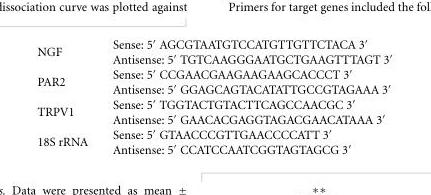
<table><tbody><tr><td rowspan="2">NGF</td><td>Sense: 5′ AGCGTAATGTCCATGTTGTTCTACA 3′</td></tr><tr><td>Antisense: 5′ TGTCAAGGGAATGCTGAAGTTTAGT 3′</td></tr><tr><td rowspan="2">PAR2</td><td>Sense: 5′ CCGAACGAAGAAGAAGCACCCT 3′</td></tr><tr><td>Antisense: 5′ GGAGCAGTACATATTGCCGTAGAAA 3′</td></tr><tr><td rowspan="2">TRPV1</td><td>Sense: 5′ TGGTACTGTACTTCAGCCAACGC 3′</td></tr><tr><td>Antisense: 5′ GAACACGAGGTAGACGAACATAAA 3′</td></tr><tr><td rowspan="2">18S rRNA</td><td>Sense: 5′ GTAACCCGTTGAACCCCATT 3′</td></tr><tr><td>Antisense: 5′ CCATCCAATCGGTAGTAGCG 3′</td></tr></tbody></table>